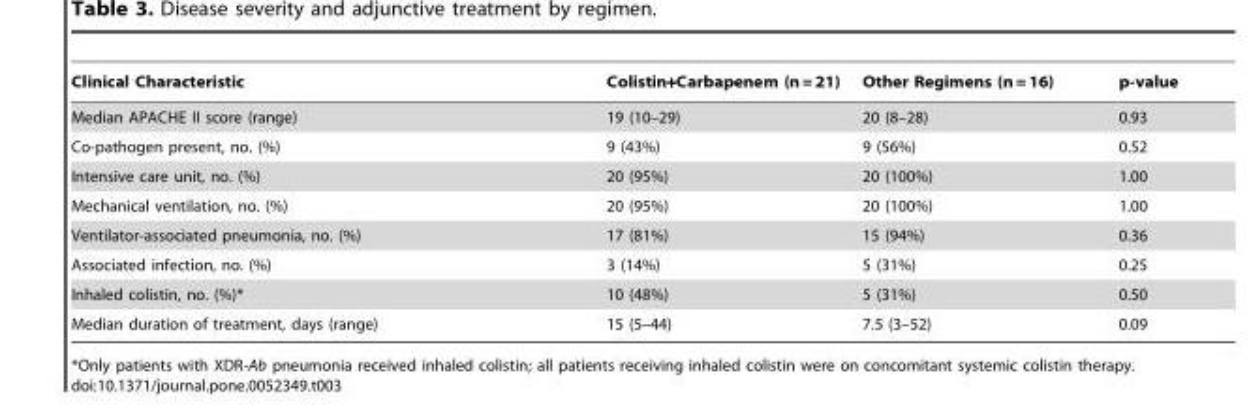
<table><thead><tr><td>Clinical Characteristic</td><td>Colistin+Carbapenem (n = 21)</td><td>Other Regimens (n = 16)</td><td>p-value</td></tr></thead><tbody><tr><td>Median APACHE II score (range)</td><td>19 (10–29)</td><td>20 (8–28)</td><td>0.93</td></tr><tr><td>Co-pathogen present, no. (%)</td><td>9 (43%)</td><td>9 (56%)</td><td>0.52</td></tr><tr><td>Intensive care unit, no. (%)</td><td>20 (95%)</td><td>20 (100%)</td><td>1.00</td></tr><tr><td>Mechanical ventilation, no. (%)</td><td>20 (95%)</td><td>20 (100%)</td><td>1.00</td></tr><tr><td>Ventilator-associated pneumonia, no. (%)</td><td>17 (81%)</td><td>15 (94%)</td><td>0.36</td></tr><tr><td>Associated infection, no. (%)</td><td>3 (14%)</td><td>5 (31%)</td><td>0.25</td></tr><tr><td>Inhaled colistin, no. (%)*</td><td>10 (48%)</td><td>5 (31%)</td><td>0.50</td></tr><tr><td>Median duration of treatment, days (range)</td><td>15 (5–44)</td><td>7.5 (3–52)</td><td>0.09</td></tr></tbody></table>